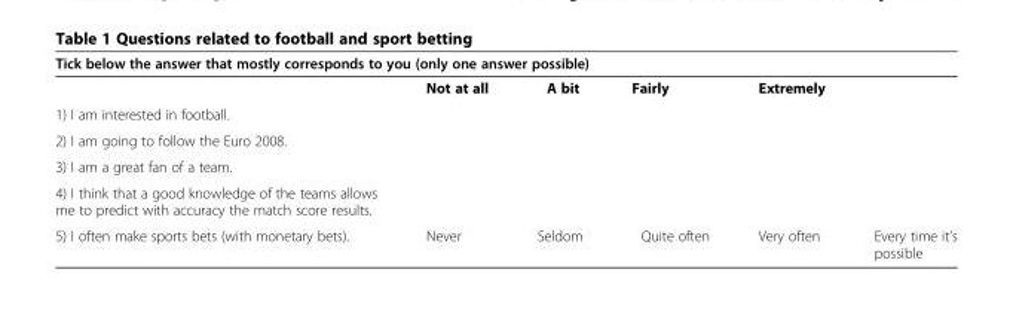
<table><thead><tr><td colspan="6">Tick below the answer that mostly corresponds to you (only one answer possible)</td></tr><tr><td></td><td>Not at all</td><td>A bit</td><td>Fairly</td><td>Extremely</td><td></td></tr></thead><tbody><tr><td colspan="6">1) I am interested in football.</td></tr><tr><td colspan="6">2) I am going to follow the Euro 2008.</td></tr><tr><td colspan="6">3) I am a great fan of a team.</td></tr><tr><td colspan="6">4) I think that a good knowledge of the teams allows me to predict with accuracy the match score results.</td></tr><tr><td>5) I often make sports bets (with monetary bets).</td><td>Never</td><td>Seldom</td><td>Quite often</td><td>Very often</td><td>Every time it’s possible</td></tr></tbody></table>